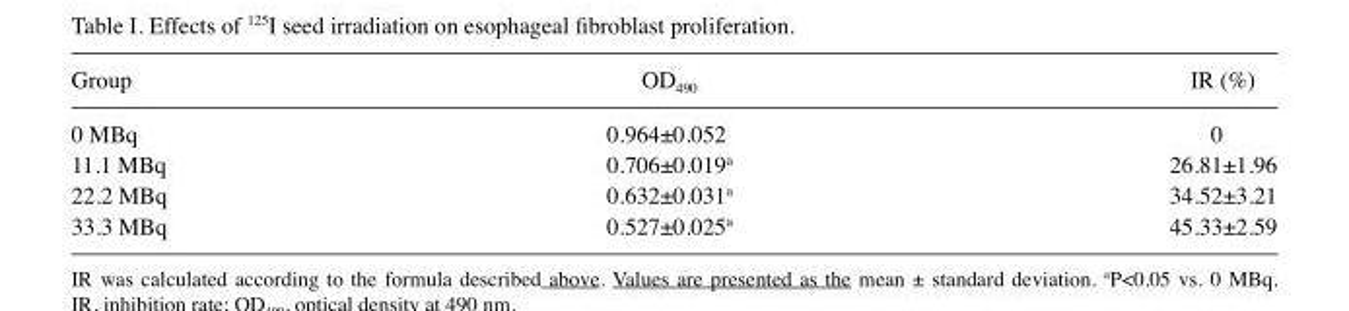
<table><thead><tr><td>Group</td><td>OD<sub>490</sub></td><td>IR (%)</td></tr></thead><tbody><tr><td>0 MBq</td><td>0.964±0.052</td><td>0</td></tr><tr><td>11.1 MBq</td><td>0.706±0.019<sup>a</sup></td><td>26.81±1.96</td></tr><tr><td>22.2 MBq</td><td>0.632±0.031<sup>a</sup></td><td>34.52±3.21</td></tr><tr><td>33.3 MBq</td><td>0.527±0.025<sup>a</sup></td><td>45.33±2.59</td></tr></tbody></table>